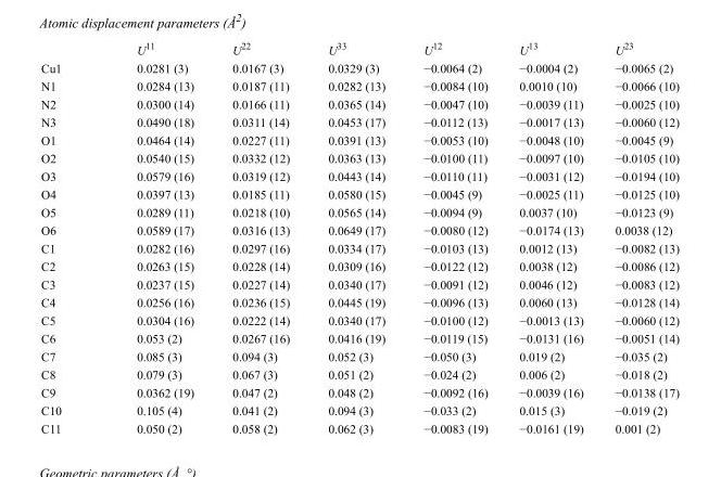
<table><thead><tr><td></td><td>U<sup>11</sup></td><td>U<sup>22</sup></td><td>U<sup>33</sup></td><td>U<sup>12</sup></td><td>U<sup>13</sup></td><td>U<sup>23</sup></td></tr></thead><tbody><tr><td>Cu1</td><td>0.0281 (3)</td><td>0.0167 (3)</td><td>0.0329 (3)</td><td>−0.0064 (2)</td><td>−0.0004 (2)</td><td>−0.0065 (2)</td></tr><tr><td>N1</td><td>0.0284 (13)</td><td>0.0187 (11)</td><td>0.0282 (13)</td><td>−0.0084 (10)</td><td>0.0010 (10)</td><td>−0.0066 (10)</td></tr><tr><td>N2</td><td>0.0300 (14)</td><td>0.0166 (11)</td><td>0.0365 (14)</td><td>−0.0047 (10)</td><td>−0.0039 (11)</td><td>−0.0025 (10)</td></tr><tr><td>N3</td><td>0.0490 (18)</td><td>0.0311 (14)</td><td>0.0453 (17)</td><td>−0.0112 (13)</td><td>−0.0017 (13)</td><td>−0.0060 (12)</td></tr><tr><td>O1</td><td>0.0464 (14)</td><td>0.0227 (11)</td><td>0.0391 (13)</td><td>−0.0053 (10)</td><td>−0.0048 (10)</td><td>−0.0045 (9)</td></tr><tr><td>O2</td><td>0.0540 (15)</td><td>0.0332 (12)</td><td>0.0363 (13)</td><td>−0.0100 (11)</td><td>−0.0097 (10)</td><td>−0.0105 (10)</td></tr><tr><td>O3</td><td>0.0579 (16)</td><td>0.0319 (12)</td><td>0.0443 (14)</td><td>−0.0110 (11)</td><td>−0.0031 (12)</td><td>−0.0194 (10)</td></tr><tr><td>O4</td><td>0.0397 (13)</td><td>0.0185 (11)</td><td>0.0580 (15)</td><td>−0.0045 (9)</td><td>−0.0025 (11)</td><td>−0.0125 (10)</td></tr><tr><td>O5</td><td>0.0289 (11)</td><td>0.0218 (10)</td><td>0.0565 (14)</td><td>−0.0094 (9)</td><td>0.0037 (10)</td><td>−0.0123 (9)</td></tr><tr><td>O6</td><td>0.0589 (17)</td><td>0.0316 (13)</td><td>0.0649 (17)</td><td>−0.0080 (12)</td><td>−0.0174 (13)</td><td>0.0038 (12)</td></tr><tr><td>C1</td><td>0.0282 (16)</td><td>0.0297 (16)</td><td>0.0334 (17)</td><td>−0.0103 (13)</td><td>0.0012 (13)</td><td>−0.0082 (13)</td></tr><tr><td>C2</td><td>0.0263 (15)</td><td>0.0228 (14)</td><td>0.0309 (16)</td><td>−0.0122 (12)</td><td>0.0038 (12)</td><td>−0.0086 (12)</td></tr><tr><td>C3</td><td>0.0237 (15)</td><td>0.0227 (14)</td><td>0.0340 (17)</td><td>−0.0091 (12)</td><td>0.0046 (12)</td><td>−0.0083 (12)</td></tr><tr><td>C4</td><td>0.0256 (16)</td><td>0.0236 (15)</td><td>0.0445 (19)</td><td>−0.0096 (13)</td><td>0.0060 (13)</td><td>−0.0128 (14)</td></tr><tr><td>C5</td><td>0.0304 (16)</td><td>0.0222 (14)</td><td>0.0340 (17)</td><td>−0.0100 (12)</td><td>−0.0013 (13)</td><td>−0.0060 (12)</td></tr><tr><td>C6</td><td>0.053 (2)</td><td>0.0267 (16)</td><td>0.0416 (19)</td><td>−0.0119 (15)</td><td>−0.0131 (16)</td><td>−0.0051 (14)</td></tr><tr><td>C7</td><td>0.085 (3)</td><td>0.094 (3)</td><td>0.052 (3)</td><td>−0.050 (3)</td><td>0.019 (2)</td><td>−0.035 (2)</td></tr><tr><td>C8</td><td>0.079 (3)</td><td>0.067 (3)</td><td>0.051 (2)</td><td>−0.024 (2)</td><td>0.006 (2)</td><td>−0.018 (2)</td></tr><tr><td>C9</td><td>0.0362 (19)</td><td>0.047 (2)</td><td>0.048 (2)</td><td>−0.0092 (16)</td><td>−0.0039 (16)</td><td>−0.0138 (17)</td></tr><tr><td>C10</td><td>0.105 (4)</td><td>0.041 (2)</td><td>0.094 (3)</td><td>−0.033 (2)</td><td>0.015 (3)</td><td>−0.019 (2)</td></tr><tr><td>C11</td><td>0.050 (2)</td><td>0.058 (2)</td><td>0.062 (3)</td><td>−0.0083 (19)</td><td>−0.0161 (19)</td><td>0.001 (2)</td></tr></tbody></table>